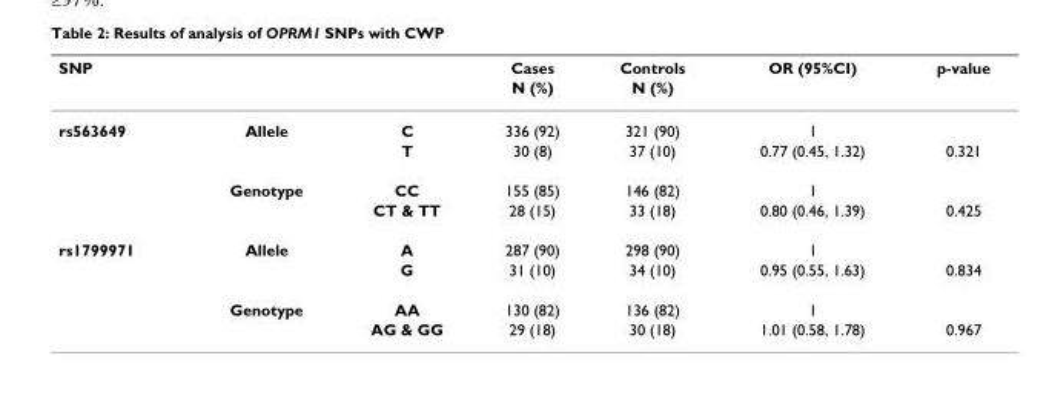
<table><thead><tr><td rowspan="2">SNP</td><td rowspan="2"></td><td rowspan="2"></td><td rowspan="2">Cases N (%)</td><td rowspan="2">Controls N (%)</td><td rowspan="2">OR (95%CI)</td><td rowspan="2">p-value</td></tr><tr></tr></thead><tbody><tr><td rowspan="4">rs563649</td><td>Allele</td><td>C</td><td>336 (92)</td><td>321 (90)</td><td>1</td><td></td></tr><tr><td></td><td>T</td><td>30 (8)</td><td>37 (10)</td><td>0.77 (0.45, 1.32)</td><td>0.321</td></tr><tr><td>Genotype</td><td>CC</td><td>155 (85)</td><td>146 (82)</td><td>1</td><td></td></tr><tr><td></td><td>CT &amp; TT</td><td>28 (15)</td><td>33 (18)</td><td>0.80 (0.46, 1.39)</td><td>0.425</td></tr><tr><td rowspan="4">rs1799971</td><td>Allele</td><td>A</td><td>287 (90)</td><td>298 (90)</td><td>1</td><td></td></tr><tr><td></td><td>G</td><td>31 (10)</td><td>34 (10)</td><td>0.95 (0.55, 1.63)</td><td>0.834</td></tr><tr><td>Genotype</td><td>AA</td><td>130 (82)</td><td>136 (82)</td><td>1</td><td></td></tr><tr><td></td><td>AG &amp; GG</td><td>29 (18)</td><td>30 (18)</td><td>1.01 (0.58, 1.78)</td><td>0.967</td></tr></tbody></table>